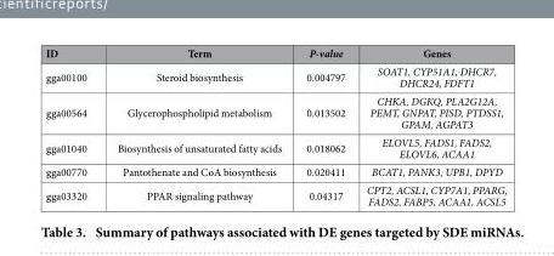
<table><thead><tr><td>ID</td><td>Term</td><td>P-value</td><td>Genes</td></tr></thead><tbody><tr><td>gga00100</td><td>Steroid biosynthesis</td><td>0.004797</td><td>SOAT1, CYP51A1, DHCR7, DHCR24, FDFT1</td></tr><tr><td>gga00564</td><td>Glycerophospholipid metabolism</td><td>0.013502</td><td>CHKA, DGKQ, PLA2G12A, PEMT, GNPAT, PISD, PTDSS1, GPAM, AGPAT3</td></tr><tr><td>gga01040</td><td>Biosynthesis of unsaturated fatty acids</td><td>0.018062</td><td>ELOVL5, FADS1, FADS2, ELOVL6, ACAA1</td></tr><tr><td>gga00770</td><td>Pantothenate and CoA biosynthesis</td><td>0.020411</td><td>BCAT1, PANK3, UPB1, DPYD</td></tr><tr><td>gga03320</td><td>PPAR signaling pathway</td><td>0.04317</td><td>CPT2, ACSL1, CYP7A1, PPARG, FADS2, FABP5, ACAA1, ACSL5</td></tr></tbody></table>